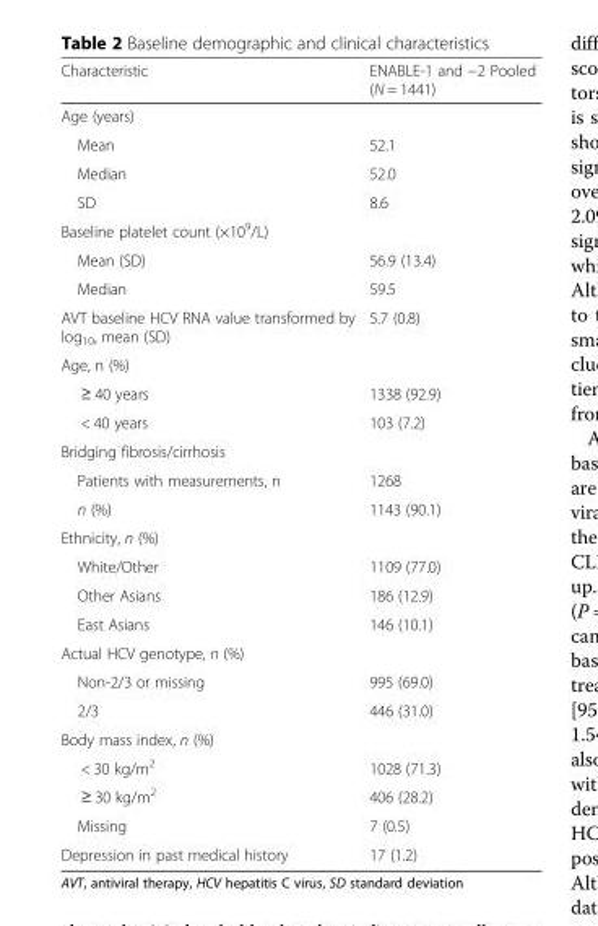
<table><thead><tr><td>Characteristic</td><td>ENABLE-1 and −2 Pooled (N = 1441)</td></tr></thead><tbody><tr><td colspan="2">Age (years)</td></tr><tr><td>Mean</td><td>52.1</td></tr><tr><td>Median</td><td>52.0</td></tr><tr><td>SD</td><td>8.6</td></tr><tr><td colspan="2">Baseline platelet count (×10<sup>9</sup>/L)</td></tr><tr><td>Mean (SD)</td><td>56.9 (13.4)</td></tr><tr><td>Median</td><td>59.5</td></tr><tr><td>AVT baseline HCV RNA value transformed by log<sub>10</sub>, mean (SD)</td><td>5.7 (0.8)</td></tr><tr><td colspan="2">Age, n (%)</td></tr><tr><td>≥ 40 years</td><td>1338 (92.9)</td></tr><tr><td>&lt; 40 years</td><td>103 (7.2)</td></tr><tr><td colspan="2">Bridging fibrosis/cirrhosis</td></tr><tr><td>Patients with measurements, n</td><td>1268</td></tr><tr><td>n (%)</td><td>1143 (90.1)</td></tr><tr><td colspan="2">Ethnicity, n (%)</td></tr><tr><td>White/Other</td><td>1109 (77.0)</td></tr><tr><td>Other Asians</td><td>186 (12.9)</td></tr><tr><td>East Asians</td><td>146 (10.1)</td></tr><tr><td colspan="2">Actual HCV genotype, n (%)</td></tr><tr><td>Non-2/3 or missing</td><td>995 (69.0)</td></tr><tr><td>2/3</td><td>446 (31.0)</td></tr><tr><td colspan="2">Body mass index, n (%)</td></tr><tr><td>&lt; 30 kg/m<sup>2</sup></td><td>1028 (71.3)</td></tr><tr><td>≥ 30 kg/m<sup>2</sup></td><td>406 (28.2)</td></tr><tr><td>Missing</td><td>7 (0.5)</td></tr><tr><td>Depression in past medical history</td><td>17 (1.2)</td></tr></tbody></table>